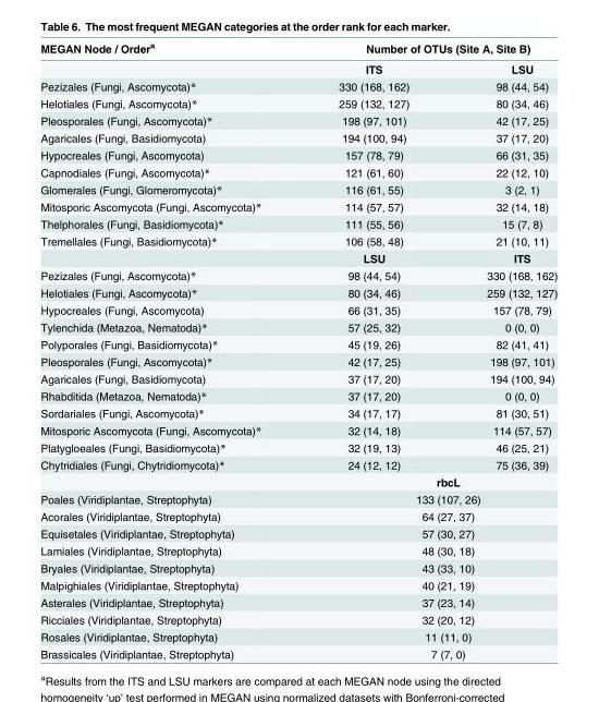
<table><thead><tr><td rowspan="2">MEGAN Node / Order<sup>a</sup></td><td colspan="2">Number of OTUs (Site A, Site B)</td></tr><tr><td>ITS</td><td>LSU</td></tr></thead><tbody><tr><td>Pezizales (Fungi, Ascomycota)*</td><td>330 (168, 162)</td><td>98 (44, 54)</td></tr><tr><td>Helotiales (Fungi, Ascomycota)*</td><td>259 (132, 127)</td><td>80 (34, 46)</td></tr><tr><td>Pleosporales (Fungi, Ascomycota)*</td><td>198 (97, 101)</td><td>42 (17, 25)</td></tr><tr><td>Agaricales (Fungi, Basidiomycota)</td><td>194 (100, 94)</td><td>37 (17, 20)</td></tr><tr><td>Hypocreales (Fungi, Ascomycota)</td><td>157 (78, 79)</td><td>66 (31, 35)</td></tr><tr><td>Capnodiales (Fungi, Ascomycota)*</td><td>121 (61, 60)</td><td>22 (12, 10)</td></tr><tr><td>Glomerales (Fungi, Glomeromycota)*</td><td>116 (61, 55)</td><td>3 (2, 1)</td></tr><tr><td>Mitosporic Ascomycota (Fungi, Ascomycota)*</td><td>114 (57, 57)</td><td>32 (14, 18)</td></tr><tr><td>Thelphorales (Fungi, Basidiomycota)*</td><td>111 (55, 56)</td><td>15 (7, 8)</td></tr><tr><td rowspan="2">Tremellales (Fungi, Basidiomycota)*</td><td>106 (58, 48)</td><td>21 (10, 11)</td></tr><tr><td>LSU</td><td>ITS</td></tr><tr><td>Pezizales (Fungi, Ascomycota)*</td><td>98 (44, 54)</td><td>330 (168, 162)</td></tr><tr><td>Helotiales (Fungi, Ascomycota)*</td><td>80 (34, 46)</td><td>259 (132, 127)</td></tr><tr><td>Hypocreales (Fungi, Ascomycota)</td><td>66 (31, 35)</td><td>157 (78, 79)</td></tr><tr><td>Tylenchida (Metazoa, Nematoda)*</td><td>57 (25, 32)</td><td>0 (0, 0)</td></tr><tr><td>Polyporales (Fungi, Basidiomycota)*</td><td>45 (19, 26)</td><td>82 (41, 41)</td></tr><tr><td>Pleosporales (Fungi, Ascomycota)*</td><td>42 (17, 25)</td><td>198 (97, 101)</td></tr><tr><td>Agaricales (Fungi, Basidiomycota)</td><td>37 (17, 20)</td><td>194 (100, 94)</td></tr><tr><td>Rhabditida (Metazoa, Nematoda)*</td><td>37 (17, 20)</td><td>0 (0, 0)</td></tr><tr><td>Sordariales (Fungi, Ascomycota)*</td><td>34 (17, 17)</td><td>81 (30, 51)</td></tr><tr><td>Mitosporic Ascomycota (Fungi, Ascomycota)*</td><td>32 (14, 18)</td><td>114 (57, 57)</td></tr><tr><td>Platygloeales (Fungi, Basidiomycota)*</td><td>32 (19, 13)</td><td>46 (25, 21)</td></tr><tr><td rowspan="2">Chytridiales (Fungi, Chytridiomycota)*</td><td>24 (12, 12)</td><td>75 (36, 39)</td></tr><tr><td colspan="2">rbcL</td></tr><tr><td>Poales (Viridiplantae, Streptophyta)</td><td colspan="2">133 (107, 26)</td></tr><tr><td>Acorales (Viridiplantae, Streptophyta)</td><td colspan="2">64 (27, 37)</td></tr><tr><td>Equisetales (Viridiplantae, Streptophyta)</td><td colspan="2">57 (30, 27)</td></tr><tr><td>Lamiales (Viridiplantae, Streptophyta)</td><td colspan="2">48 (30, 18)</td></tr><tr><td>Bryales (Viridiplantae, Streptophyta)</td><td colspan="2">43 (33, 10)</td></tr><tr><td>Malpighiales (Viridiplantae, Streptophyta)</td><td colspan="2">40 (21, 19)</td></tr><tr><td>Asterales (Viridiplantae, Streptophyta)</td><td colspan="2">37 (23, 14)</td></tr><tr><td>Ricciales (Viridiplantae, Streptophyta)</td><td colspan="2">32 (20, 12)</td></tr><tr><td>Rosales (Viridiplantae, Streptophyta)</td><td colspan="2">11 (11, 0)</td></tr><tr><td>Brassicales (Viridiplantae, Streptophyta)</td><td colspan="2">7 (7, 0)</td></tr></tbody></table>